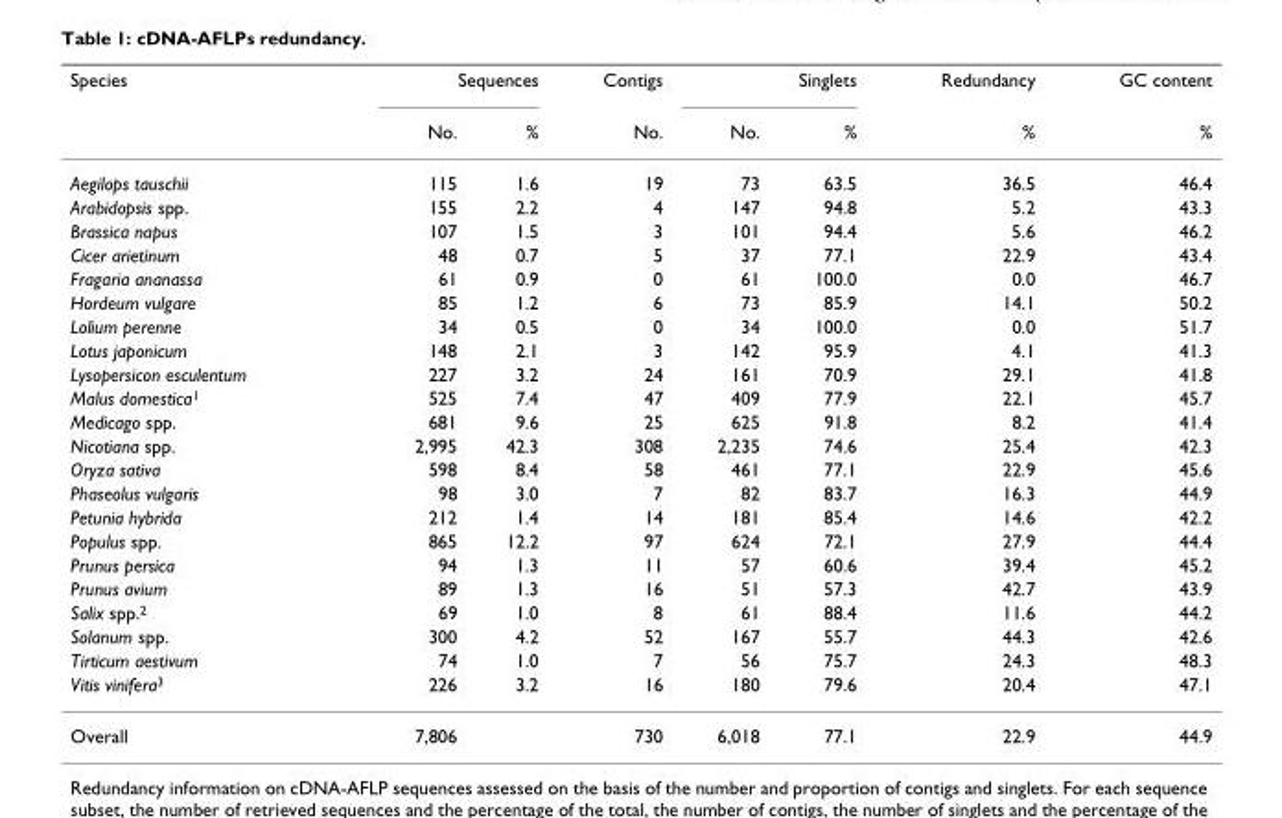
<table><thead><tr><td rowspan="2">Species</td><td colspan="2">Sequences</td><td rowspan="2">Contigs No.</td><td colspan="2">Singlets</td><td rowspan="2">Redundancy %</td><td rowspan="2">GC content %</td></tr><tr><td>No.</td><td>%</td><td>No.</td><td>%</td></tr></thead><tbody><tr><td>Aegilops tauschii</td><td>115</td><td>1.6</td><td>19</td><td>73</td><td>63.5</td><td>36.5</td><td>46.4</td></tr><tr><td>Arabidopsis spp.</td><td>155</td><td>2.2</td><td>4</td><td>147</td><td>94.8</td><td>5.2</td><td>43.3</td></tr><tr><td>Brassica napus</td><td>107</td><td>1.5</td><td>3</td><td>101</td><td>94.4</td><td>5.6</td><td>46.2</td></tr><tr><td>Cicer arietinum</td><td>48</td><td>0.7</td><td>5</td><td>37</td><td>77.1</td><td>22.9</td><td>43.4</td></tr><tr><td>Fragaria ananassa</td><td>61</td><td>0.9</td><td>0</td><td>61</td><td>100.0</td><td>0.0</td><td>46.7</td></tr><tr><td>Hordeum vulgare</td><td>85</td><td>1.2</td><td>6</td><td>73</td><td>85.9</td><td>14.1</td><td>50.2</td></tr><tr><td>Lolium perenne</td><td>34</td><td>0.5</td><td>0</td><td>34</td><td>100.0</td><td>0.0</td><td>51.7</td></tr><tr><td>Lotus japonicum</td><td>148</td><td>2.1</td><td>3</td><td>142</td><td>95.9</td><td>4.1</td><td>41.3</td></tr><tr><td>Lysopersicon esculentum</td><td>227</td><td>3.2</td><td>24</td><td>161</td><td>70.9</td><td>29.1</td><td>41.8</td></tr><tr><td>Malus domestica<sup>1</sup></td><td>525</td><td>7.4</td><td>47</td><td>409</td><td>77.9</td><td>22.1</td><td>45.7</td></tr><tr><td>Medicago spp.</td><td>681</td><td>9.6</td><td>25</td><td>625</td><td>91.8</td><td>8.2</td><td>41.4</td></tr><tr><td>Nicotiana spp.</td><td>2,995</td><td>42.3</td><td>308</td><td>2,235</td><td>74.6</td><td>25.4</td><td>42.3</td></tr><tr><td>Oryza sativa</td><td>598</td><td>8.4</td><td>58</td><td>461</td><td>77.1</td><td>22.9</td><td>45.6</td></tr><tr><td>Phaseolus vulgaris</td><td>98</td><td>3.0</td><td>7</td><td>82</td><td>83.7</td><td>16.3</td><td>44.9</td></tr><tr><td>Petunia hybrida</td><td>212</td><td>1.4</td><td>14</td><td>181</td><td>85.4</td><td>14.6</td><td>42.2</td></tr><tr><td>Populus spp.</td><td>865</td><td>12.2</td><td>97</td><td>624</td><td>72.1</td><td>27.9</td><td>44.4</td></tr><tr><td>Prunus persica</td><td>94</td><td>1.3</td><td>11</td><td>57</td><td>60.6</td><td>39.4</td><td>45.2</td></tr><tr><td>Prunus avium</td><td>89</td><td>1.3</td><td>16</td><td>51</td><td>57.3</td><td>42.7</td><td>43.9</td></tr><tr><td>Salix spp.<sup>2</sup></td><td>69</td><td>1.0</td><td>8</td><td>61</td><td>88.4</td><td>11.6</td><td>44.2</td></tr><tr><td>Solanum spp.</td><td>300</td><td>4.2</td><td>52</td><td>167</td><td>55.7</td><td>44.3</td><td>42.6</td></tr><tr><td>Tirticum aestivum</td><td>74</td><td>1.0</td><td>7</td><td>56</td><td>75.7</td><td>24.3</td><td>48.3</td></tr><tr><td>Vitis vinifera<sup>3</sup></td><td>226</td><td>3.2</td><td>16</td><td>180</td><td>79.6</td><td>20.4</td><td>47.1</td></tr><tr><td>Overall</td><td>7,806</td><td></td><td>730</td><td>6,018</td><td>77.1</td><td>22.9</td><td>44.9</td></tr></tbody></table>